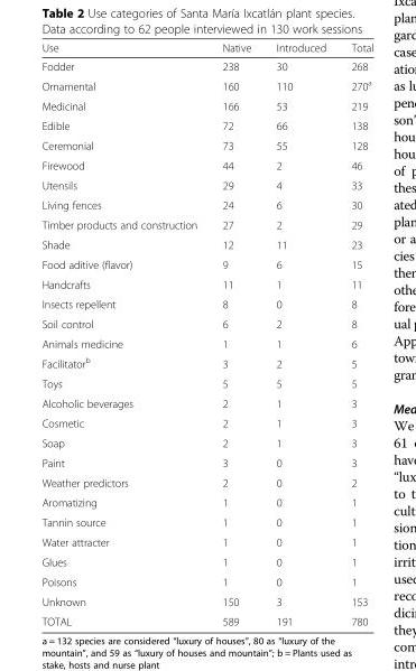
<table><thead><tr><td>Use</td><td>Native</td><td>Introduced</td><td>Total</td></tr></thead><tbody><tr><td>Fodder</td><td>238</td><td>30</td><td>268</td></tr><tr><td>Ornamental</td><td>160</td><td>110</td><td>270<sup>a</sup></td></tr><tr><td>Medicinal</td><td>166</td><td>53</td><td>219</td></tr><tr><td>Edible</td><td>72</td><td>66</td><td>138</td></tr><tr><td>Ceremonial</td><td>73</td><td>55</td><td>128</td></tr><tr><td>Firewood</td><td>44</td><td>2</td><td>46</td></tr><tr><td>Utensils</td><td>29</td><td>4</td><td>33</td></tr><tr><td>Living fences</td><td>24</td><td>6</td><td>30</td></tr><tr><td>Timber products and construction</td><td>27</td><td>2</td><td>29</td></tr><tr><td>Shade</td><td>12</td><td>11</td><td>23</td></tr><tr><td>Food aditive (flavor)</td><td>9</td><td>6</td><td>15</td></tr><tr><td>Handcrafts</td><td>11</td><td>1</td><td>11</td></tr><tr><td>Insects repellent</td><td>8</td><td>0</td><td>8</td></tr><tr><td>Soil control</td><td>6</td><td>2</td><td>8</td></tr><tr><td>Animals medicine</td><td>1</td><td>1</td><td>6</td></tr><tr><td>Facilitator<sup>b</sup></td><td>3</td><td>2</td><td>5</td></tr><tr><td>Toys</td><td>5</td><td>5</td><td>5</td></tr><tr><td>Alcoholic beverages</td><td>2</td><td>1</td><td>3</td></tr><tr><td>Cosmetic</td><td>2</td><td>1</td><td>3</td></tr><tr><td>Soap</td><td>2</td><td>1</td><td>3</td></tr><tr><td>Paint</td><td>3</td><td>0</td><td>3</td></tr><tr><td>Weather predictors</td><td>2</td><td>0</td><td>2</td></tr><tr><td>Aromatizing</td><td>1</td><td>0</td><td>1</td></tr><tr><td>Tannin source</td><td>1</td><td>0</td><td>1</td></tr><tr><td>Water attracter</td><td>1</td><td>0</td><td>1</td></tr><tr><td>Glues</td><td>1</td><td>0</td><td>1</td></tr><tr><td>Poisons</td><td>1</td><td>0</td><td>1</td></tr><tr><td>Unknown</td><td>150</td><td>3</td><td>153</td></tr><tr><td>TOTAL</td><td>589</td><td>191</td><td>780</td></tr></tbody></table>